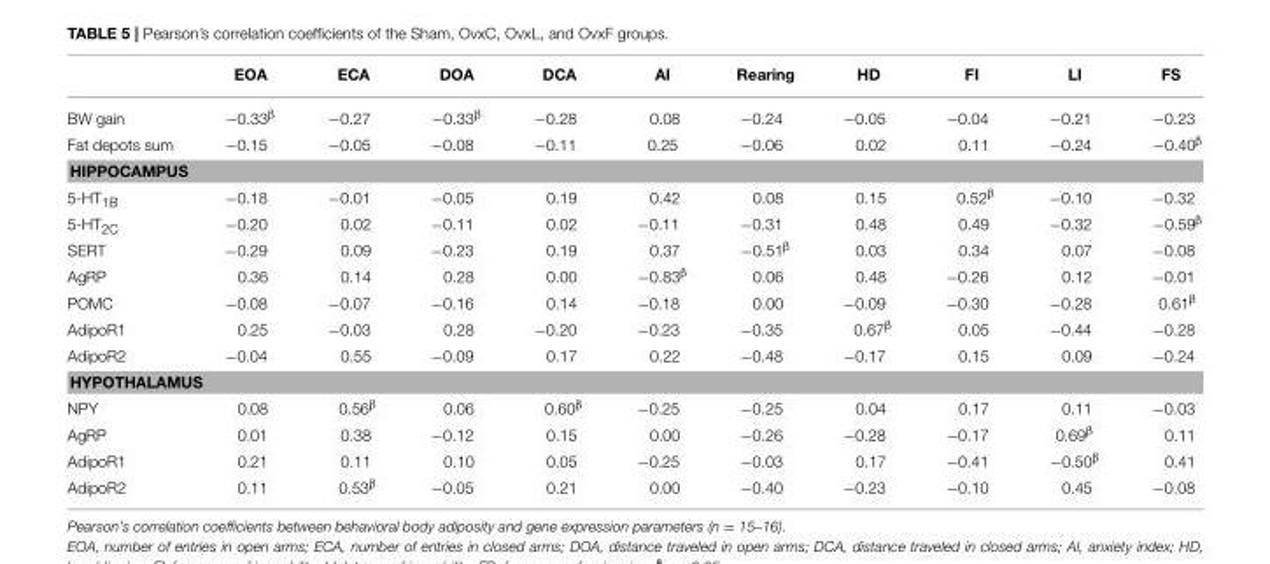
<table><thead><tr><td></td><td>EOA</td><td>ECA</td><td>DOA</td><td>DCA</td><td>AI</td><td>Rearing</td><td>HD</td><td>FI</td><td>LI</td><td>FS</td></tr></thead><tbody><tr><td>BW gain</td><td>−0.33<sup>β</sup></td><td>−0.27</td><td>−0.33<sup>β</sup></td><td>−0.28</td><td>0.08</td><td>−0.24</td><td>−0.05</td><td>−0.04</td><td>−0.21</td><td>−0.23</td></tr><tr><td>Fat depots sum</td><td>−0.15</td><td>−0.05</td><td>−0.08</td><td>−0.11</td><td>0.25</td><td>−0.06</td><td>0.02</td><td>0.11</td><td>−0.24</td><td>−0.40<sup>β</sup></td></tr><tr><td colspan="11">HIPPOCAMPUS</td></tr><tr><td>5-HT<sub>1B</sub></td><td>−0.18</td><td>−0.01</td><td>−0.05</td><td>0.19</td><td>0.42</td><td>0.08</td><td>0.15</td><td>0.52<sup>β</sup></td><td>−0.10</td><td>−0.32</td></tr><tr><td>5-HT<sub>2C</sub></td><td>−0.20</td><td>0.02</td><td>−0.11</td><td>0.02</td><td>−0.11</td><td>−0.31</td><td>0.48</td><td>0.49</td><td>−0.32</td><td>−0.59<sup>β</sup></td></tr><tr><td>SERT</td><td>−0.29</td><td>0.09</td><td>−0.23</td><td>0.19</td><td>0.37</td><td>−0.51<sup>β</sup></td><td>0.03</td><td>0.34</td><td>0.07</td><td>−0.08</td></tr><tr><td>AgRP</td><td>0.36</td><td>0.14</td><td>0.28</td><td>0.00</td><td>−0.83<sup>β</sup></td><td>0.06</td><td>0.48</td><td>−0.26</td><td>0.12</td><td>−0.01</td></tr><tr><td>POMC</td><td>−0.08</td><td>−0.07</td><td>−0.16</td><td>0.14</td><td>−0.18</td><td>0.00</td><td>−0.09</td><td>−0.30</td><td>−0.28</td><td>0.61<sup>β</sup></td></tr><tr><td>AdipoR1</td><td>0.25</td><td>−0.03</td><td>0.28</td><td>−0.20</td><td>−0.23</td><td>−0.35</td><td>0.67<sup>β</sup></td><td>0.05</td><td>−0.44</td><td>−0.28</td></tr><tr><td>AdipoR2</td><td>−0.04</td><td>0.55</td><td>−0.09</td><td>0.17</td><td>0.22</td><td>−0.48</td><td>−0.17</td><td>0.15</td><td>0.09</td><td>−0.24</td></tr><tr><td colspan="11">HYPOTHALAMUS</td></tr><tr><td>NPY</td><td>0.08</td><td>0.56<sup>β</sup></td><td>0.06</td><td>0.60<sup>β</sup></td><td>−0.25</td><td>−0.25</td><td>0.04</td><td>0.17</td><td>0.11</td><td>−0.03</td></tr><tr><td>AgRP</td><td>0.01</td><td>0.38</td><td>−0.12</td><td>0.15</td><td>0.00</td><td>−0.26</td><td>−0.28</td><td>−0.17</td><td>0.69<sup>β</sup></td><td>0.11</td></tr><tr><td>AdipoR1</td><td>0.21</td><td>0.11</td><td>0.10</td><td>0.05</td><td>−0.25</td><td>−0.03</td><td>0.17</td><td>−0.41</td><td>−0.50<sup>β</sup></td><td>0.41</td></tr><tr><td>AdipoR2</td><td>0.11</td><td>0.53<sup>β</sup></td><td>−0.05</td><td>0.21</td><td>0.00</td><td>−0.40</td><td>−0.23</td><td>−0.10</td><td>0.45</td><td>−0.08</td></tr></tbody></table>